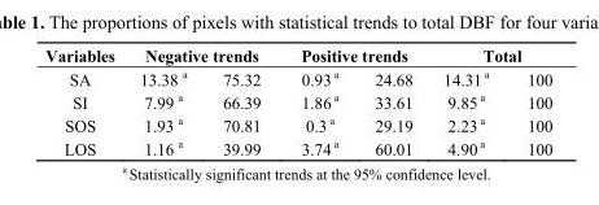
<table><thead><tr><td rowspan="2">Variables SA</td><td colspan="2">Negative trends</td><td colspan="2">Positive trends</td><td colspan="2">Total</td></tr><tr><td>13.38 <sup>a</sup></td><td>75.32</td><td>0.93 <sup>a</sup></td><td>24.68</td><td>14.31 <sup>a</sup></td><td>100</td></tr></thead><tbody><tr><td>SI</td><td>7.99 <sup>a</sup></td><td>66.39</td><td>1.86 <sup>a</sup></td><td>33.61</td><td>9.85 <sup>a</sup></td><td>100</td></tr><tr><td>SOS</td><td>1.93 <sup>a</sup></td><td>70.81</td><td>0.3 <sup>a</sup></td><td>29.19</td><td>2.23 <sup>a</sup></td><td>100</td></tr><tr><td>LOS</td><td>1.16 <sup>a</sup></td><td>39.99</td><td>3.74 <sup>a</sup></td><td>60.01</td><td>4.90 <sup>a</sup></td><td>100</td></tr></tbody></table>